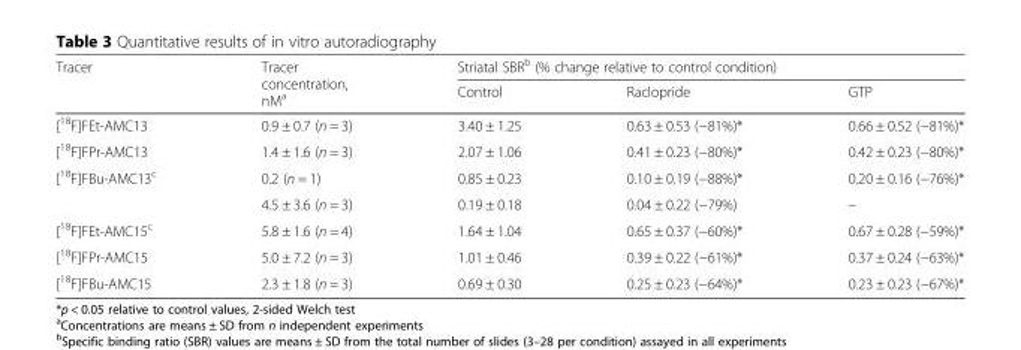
<table><thead><tr><td rowspan="2">Tracer</td><td rowspan="2">Tracer concentration, nM<sup>a</sup></td><td colspan="3">Striatal SBR<sup>b</sup> (% change relative to control condition)</td></tr><tr><td>Control</td><td>Raclopride</td><td>GTP</td></tr></thead><tbody><tr><td>[<sup>18</sup>F]FEt-AMC13</td><td>0.9 ± 0.7 (n = 3)</td><td>3.40 ± 1.25</td><td>0.63 ± 0.53 (−81%)*</td><td>0.66 ± 0.52 (−81%)*</td></tr><tr><td>[<sup>18</sup>F]FPr-AMC13</td><td>1.4 ± 1.6 (n = 3)</td><td>2.07 ± 1.06</td><td>0.41 ± 0.23 (−80%)*</td><td>0.42 ± 0.23 (−80%)*</td></tr><tr><td rowspan="2">[<sup>18</sup>F]FBu-AMC13<sup>c</sup></td><td>0.2 (n = 1)</td><td>0.85 ± 0.23</td><td>0.10 ± 0.19 (−88%)*</td><td>0.20 ± 0.16 (−76%)*</td></tr><tr><td>4.5 ± 3.6 (n = 3)</td><td>0.19 ± 0.18</td><td>0.04 ± 0.22 (−79%)</td><td>–</td></tr><tr><td>[<sup>18</sup>F]FEt-AMC15<sup>c</sup></td><td>5.8 ± 1.6 (n = 4)</td><td>1.64 ± 1.04</td><td>0.65 ± 0.37 (−60%)*</td><td>0.67 ± 0.28 (−59%)*</td></tr><tr><td>[<sup>18</sup>F]FPr-AMC15</td><td>5.0 ± 7.2 (n = 3)</td><td>1.01 ± 0.46</td><td>0.39 ± 0.22 (−61%)*</td><td>0.37 ± 0.24 (−63%)*</td></tr><tr><td>[<sup>18</sup>F]FBu-AMC15</td><td>2.3 ± 1.8 (n = 3)</td><td>0.69 ± 0.30</td><td>0.25 ± 0.23 (−64%)*</td><td>0.23 ± 0.23 (−67%)*</td></tr></tbody></table>